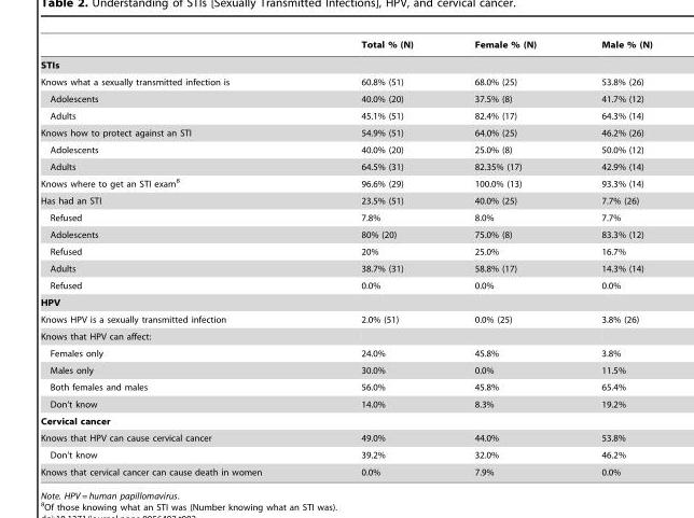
<table><thead><tr><td></td><td>Total % (N)</td><td>Female % (N)</td><td>Male % (N)</td></tr></thead><tbody><tr><td colspan="4">STIs</td></tr><tr><td>Knows what a sexually transmitted infection is</td><td>60.8% (51)</td><td>68.0% (25)</td><td>53.8% (26)</td></tr><tr><td>Adolescents</td><td>40.0% (20)</td><td>37.5% (8)</td><td>41.7% (12)</td></tr><tr><td>Adults</td><td>45.1% (51)</td><td>82.4% (17)</td><td>64.3% (14)</td></tr><tr><td>Knows how to protect against an STI</td><td>54.9% (51)</td><td>64.0% (25)</td><td>46.2% (26)</td></tr><tr><td>Adolescents</td><td>40.0% (20)</td><td>25.0% (8)</td><td>50.0% (12)</td></tr><tr><td>Adults</td><td>64.5% (31)</td><td>82.35% (17)</td><td>42.9% (14)</td></tr><tr><td>Knows where to get an STI exam<sup>8</sup></td><td>96.6% (29)</td><td>100.0% (13)</td><td>93.3% (14)</td></tr><tr><td>Has had an STI</td><td>23.5% (51)</td><td>40.0% (25)</td><td>7.7% (26)</td></tr><tr><td>Refused</td><td>7.8%</td><td>8.0%</td><td>7.7%</td></tr><tr><td>Adolescents</td><td>80% (20)</td><td>75.0% (8)</td><td>83.3% (12)</td></tr><tr><td>Refused</td><td>20%</td><td>25.0%</td><td>16.7%</td></tr><tr><td>Adults</td><td>38.7% (31)</td><td>58.8% (17)</td><td>14.3% (14)</td></tr><tr><td>Refused</td><td>0.0%</td><td>0.0%</td><td>0.0%</td></tr><tr><td colspan="4">HPV</td></tr><tr><td>Knows HPV is a sexually transmitted infection</td><td>2.0% (51)</td><td>0.0% (25)</td><td>3.8% (26)</td></tr><tr><td colspan="4">Knows that HPV can affect:</td></tr><tr><td>Females only</td><td>24.0%</td><td>45.8%</td><td>3.8%</td></tr><tr><td>Males only</td><td>30.0%</td><td>0.0%</td><td>11.5%</td></tr><tr><td>Both females and males</td><td>56.0%</td><td>45.8%</td><td>65.4%</td></tr><tr><td>Don’t know</td><td>14.0%</td><td>8.3%</td><td>19.2%</td></tr><tr><td colspan="4">Cervical cancer</td></tr><tr><td>Knows that HPV can cause cervical cancer</td><td>49.0%</td><td>44.0%</td><td>53.8%</td></tr><tr><td>Don’t know</td><td>39.2%</td><td>32.0%</td><td>46.2%</td></tr><tr><td>Knows that cervical cancer can cause death in women</td><td>0.0%</td><td>7.9%</td><td>0.0%</td></tr></tbody></table>